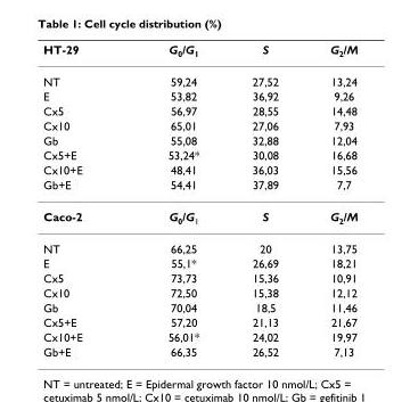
<table><thead><tr><td>HT-29</td><td>G<sub>0</sub>/G<sub>1</sub></td><td>S</td><td>G<sub>2</sub>/M</td></tr></thead><tbody><tr><td>NT</td><td>59,24</td><td>27,52</td><td>13,24</td></tr><tr><td>E</td><td>53,82</td><td>36,92</td><td>9,26</td></tr><tr><td>Cx5</td><td>56,97</td><td>28,55</td><td>14,48</td></tr><tr><td>Cx10</td><td>65,01</td><td>27,06</td><td>7,93</td></tr><tr><td>Gb</td><td>55,08</td><td>32,88</td><td>12,04</td></tr><tr><td>Cx5+E</td><td>53,24*</td><td>30,08</td><td>16,68</td></tr><tr><td>Cx10+E</td><td>48,41</td><td>36,03</td><td>15,56</td></tr><tr><td>Gb+E</td><td>54,41</td><td>37,89</td><td>7,7</td></tr><tr><td>Caco-2</td><td>G<sub>0</sub>/G<sub>1</sub></td><td>S</td><td>G<sub>2</sub>/M</td></tr><tr><td>NT</td><td>66,25</td><td>20</td><td>13,75</td></tr><tr><td>E</td><td>55,1*</td><td>26,69</td><td>18,21</td></tr><tr><td>Cx5</td><td>73,73</td><td>15,36</td><td>10,91</td></tr><tr><td>Cx10</td><td>72,50</td><td>15,38</td><td>12,12</td></tr><tr><td>Gb</td><td>70,04</td><td>18,5</td><td>11,46</td></tr><tr><td>Cx5+E</td><td>57,20</td><td>21,13</td><td>21,67</td></tr><tr><td>Cx10+E</td><td>56,01*</td><td>24,02</td><td>19,97</td></tr><tr><td>Gb+E</td><td>66,35</td><td>26,52</td><td>7,13</td></tr></tbody></table>